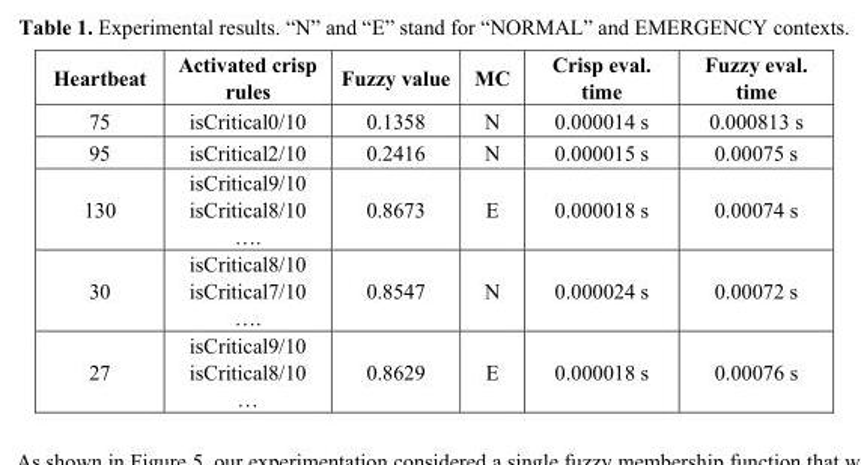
<table><thead><tr><td>Heartbeat</td><td>Activated crisp rules</td><td>Fuzzy value</td><td>MC</td><td>Crisp eval. time</td><td>Fuzzy eval. time</td></tr></thead><tbody><tr><td>75</td><td>isCritical0/10</td><td>0.1358</td><td>N</td><td>0.000014 s</td><td>0.000813 s</td></tr><tr><td>95</td><td>isCritical2/10</td><td>0.2416</td><td>N</td><td>0.000015 s</td><td>0.00075 s</td></tr><tr><td>130</td><td>isCritical9/10 isCritical8/10 ….</td><td>0.8673</td><td>E</td><td>0.000018 s</td><td>0.00074 s</td></tr><tr><td>30</td><td>isCritical8/10 isCritical7/10 ….</td><td>0.8547</td><td>N</td><td>0.000024 s</td><td>0.00072 s</td></tr><tr><td>27</td><td>isCritical9/10 isCritical8/10 …</td><td>0.8629</td><td>E</td><td>0.000018 s</td><td>0.00076 s</td></tr></tbody></table>